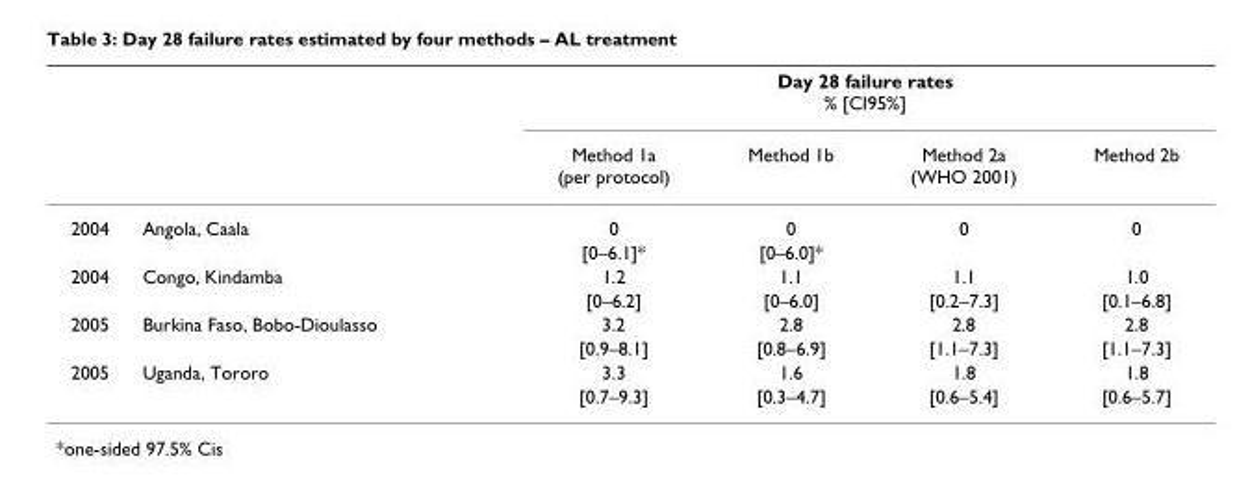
<table><thead><tr><td rowspan="2"></td><td rowspan="2"></td><td colspan="4">Day 28 failure rates % [CI95%]</td></tr><tr><td>Method 1a (per protocol)</td><td>Method 1b</td><td>Method 2a (WHO 2001)</td><td>Method 2b</td></tr></thead><tbody><tr><td rowspan="2">2004</td><td>Angola, Caala</td><td>0</td><td>0</td><td>0</td><td>0</td></tr><tr><td></td><td>[0–6.1]*</td><td>[0–6.0]*</td><td></td><td></td></tr><tr><td rowspan="2">2004</td><td>Congo, Kindamba</td><td>1.2</td><td>1.1</td><td>1.1</td><td>1.0</td></tr><tr><td></td><td>[0–6.2]</td><td>[0–6.0]</td><td>[0.2–7.3]</td><td>[0.1–6.8]</td></tr><tr><td rowspan="2">2005</td><td>Burkina Faso, Bobo-Dioulasso</td><td>3.2</td><td>2.8</td><td>2.8</td><td>2.8</td></tr><tr><td></td><td>[0.9–8.1]</td><td>[0.8–6.9]</td><td>[1.1–7.3]</td><td>[1.1–7.3]</td></tr><tr><td rowspan="2">2005</td><td>Uganda, Tororo</td><td>3.3</td><td>1.6</td><td>1.8</td><td>1.8</td></tr><tr><td></td><td>[0.7–9.3]</td><td>[0.3–4.7]</td><td>[0.6–5.4]</td><td>[0.6–5.7]</td></tr></tbody></table>